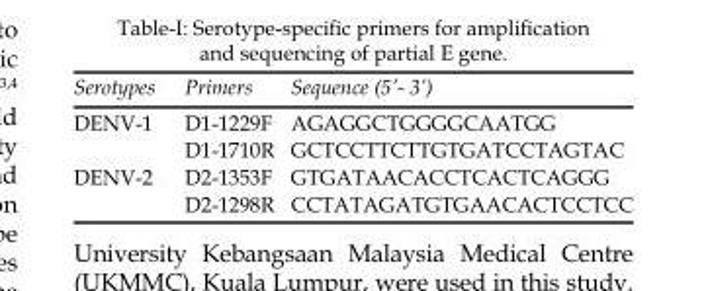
<table><thead><tr><td>Serotypes</td><td>Primers</td><td>Sequence (5’- 3’)</td></tr></thead><tbody><tr><td rowspan="2">DENV-1</td><td>D1-1229F</td><td>AGAGGCTGGGGCAATGG</td></tr><tr><td>D1-1710R</td><td>GCTCCTTCTTGTGATCCTAGTAC</td></tr><tr><td rowspan="2">DENV-2</td><td>D2-1353F</td><td>GTGATAACACCTCACTCAGGG</td></tr><tr><td>D2-1298R</td><td>CCTATAGATGTGAACACTCCTCC</td></tr></tbody></table>